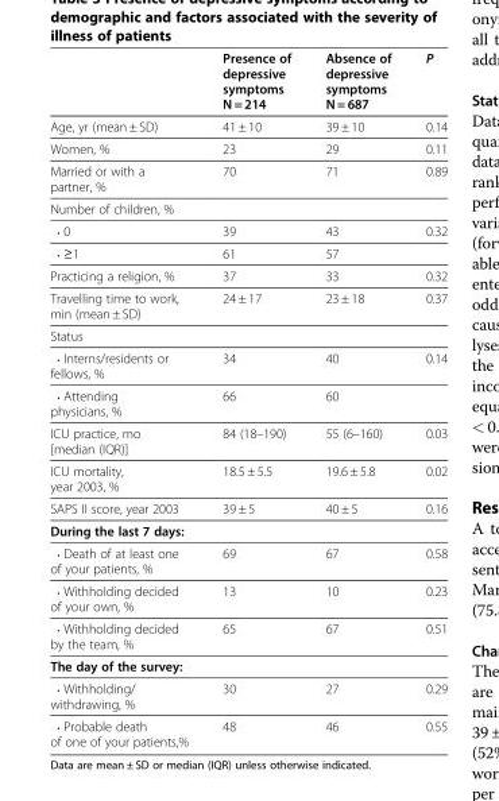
<table><thead><tr><td></td><td>Presence of depressive symptoms N = 214</td><td>Absence of depressive symptoms N = 687</td><td>P</td></tr></thead><tbody><tr><td>Age, yr (mean ± SD)</td><td>41 ± 10</td><td>39 ± 10</td><td>0.14</td></tr><tr><td>Women, %</td><td>23</td><td>29</td><td>0.11</td></tr><tr><td>Married or with a partner, %</td><td>70</td><td>71</td><td>0.89</td></tr><tr><td colspan="4">Number of children, %</td></tr><tr><td>• 0</td><td>39</td><td>43</td><td>0.32</td></tr><tr><td>• ≥1</td><td>61</td><td>57</td><td></td></tr><tr><td>Practicing a religion, %</td><td>37</td><td>33</td><td>0.32</td></tr><tr><td>Travelling time to work, min (mean ± SD)</td><td>24 ± 17</td><td>23 ± 18</td><td>0.37</td></tr><tr><td colspan="4">Status</td></tr><tr><td>• Interns/residents or fellows, %</td><td>34</td><td>40</td><td>0.14</td></tr><tr><td>• Attending physicians, %</td><td>66</td><td>60</td><td></td></tr><tr><td>ICU practice, mo [median (IQR)]</td><td>84 (18–190)</td><td>55 (6–160)</td><td>0.03</td></tr><tr><td>ICU mortality, year 2003, %</td><td>18.5 ± 5.5</td><td>19.6 ± 5.8</td><td>0.02</td></tr><tr><td>SAPS II score, year 2003</td><td>39 ± 5</td><td>40 ± 5</td><td>0.16</td></tr><tr><td colspan="4">During the last 7 days:</td></tr><tr><td>• Death of at least one of your patients, %</td><td>69</td><td>67</td><td>0.58</td></tr><tr><td>• Withholding decided of your own, %</td><td>13</td><td>10</td><td>0.23</td></tr><tr><td>• Withholding decided by the team, %</td><td>65</td><td>67</td><td>0.51</td></tr><tr><td colspan="4">The day of the survey:</td></tr><tr><td>• Withholding/ withdrawing, %</td><td>30</td><td>27</td><td>0.29</td></tr><tr><td>• Probable death of one of your patients,%</td><td>48</td><td>46</td><td>0.55</td></tr></tbody></table>